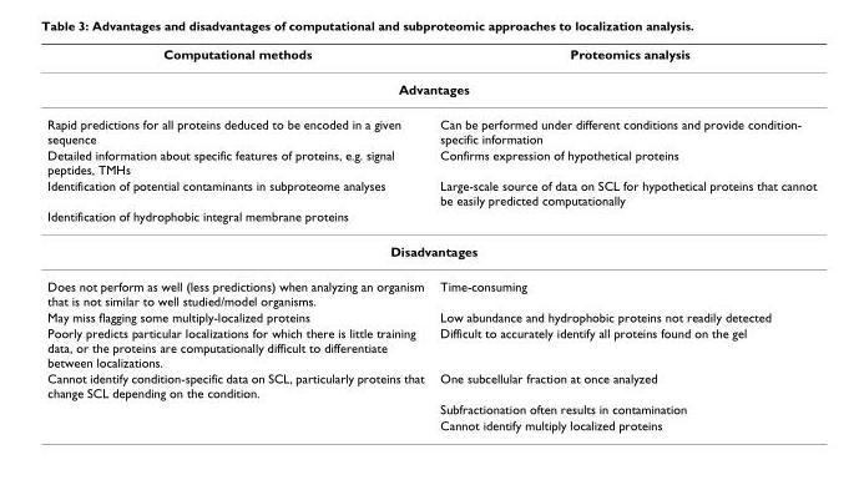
<table><thead><tr><td>Computational methods</td><td>Proteomics analysis</td></tr></thead><tbody><tr><td colspan="2">Advantages</td></tr><tr><td>Rapid predictions for all proteins deduced to be encoded in a given sequence</td><td>Can be performed under different conditions and provide condition- specific information</td></tr><tr><td>Detailed information about specific features of proteins, e.g. signal peptides, TMHs</td><td>Confirms expression of hypothetical proteins</td></tr><tr><td>Identification of potential contaminants in subproteome analyses</td><td>Large-scale source of data on SCL for hypothetical proteins that cannot be easily predicted computationally</td></tr><tr><td colspan="2">Identification of hydrophobic integral membrane proteins</td></tr><tr><td colspan="2">Disadvantages</td></tr><tr><td>Does not perform as well (less predictions) when analyzing an organism that is not similar to well studied/model organisms.</td><td>Time-consuming</td></tr><tr><td>May miss flagging some multiply-localized proteins</td><td>Low abundance and hydrophobic proteins not readily detected</td></tr><tr><td>Poorly predicts particular localizations for which there is little training data, or the proteins are computationally difficult to differentiate between localizations.</td><td>Difficult to accurately identify all proteins found on the gel</td></tr><tr><td rowspan="3">Cannot identify condition-specific data on SCL, particularly proteins that change SCL depending on the condition.</td><td>One subcellular fraction at once analyzed</td></tr><tr><td>Subfractionation often results in contamination</td></tr><tr><td>Cannot identify multiply localized proteins</td></tr></tbody></table>